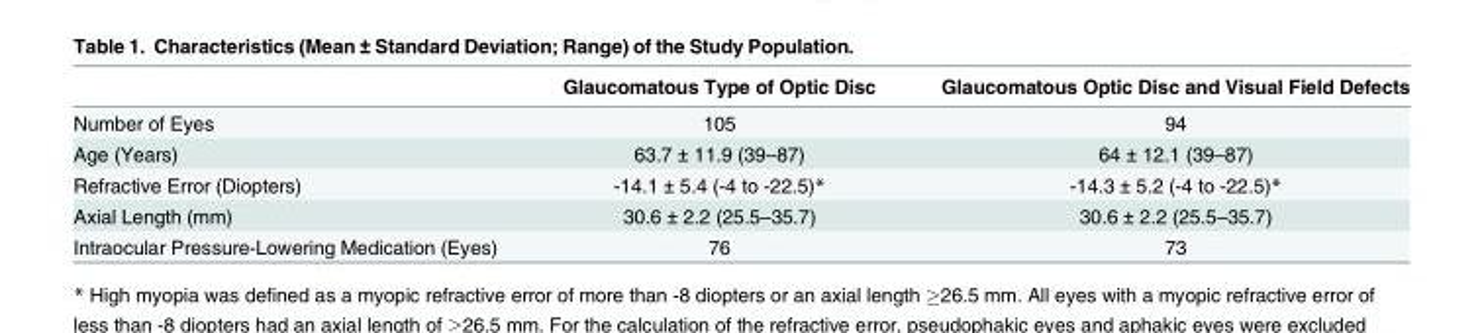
<table><thead><tr><td></td><td>Glaucomatous Type of Optic Disc</td><td>Glaucomatous Optic Disc and Visual Field Defects</td></tr></thead><tbody><tr><td>Number of Eyes</td><td>105</td><td>94</td></tr><tr><td>Age (Years)</td><td>63.7 ± 11.9 (39–87)</td><td>64 ± 12.1 (39–87)</td></tr><tr><td>Refractive Error (Diopters)</td><td>-14.1 ± 5.4 (-4 to -22.5)*</td><td>-14.3 ± 5.2 (-4 to -22.5)*</td></tr><tr><td>Axial Length (mm)</td><td>30.6 ± 2.2 (25.5–35.7)</td><td>30.6 ± 2.2 (25.5–35.7)</td></tr><tr><td>Intraocular Pressure-Lowering Medication (Eyes)</td><td>76</td><td>73</td></tr></tbody></table>